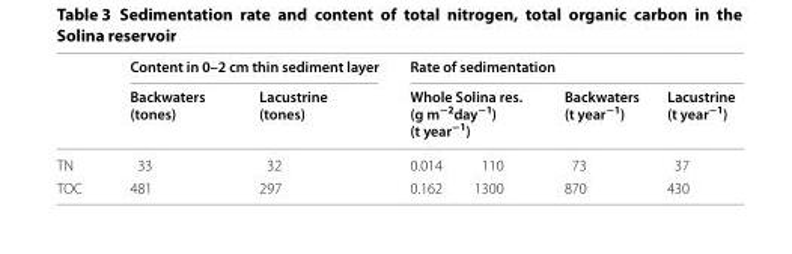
<table><thead><tr><td rowspan="3">TN</td><td colspan="2">Content in 0–2 cm thin sediment layer</td><td colspan="4">Rate of sedimentation</td></tr><tr><td rowspan="2">Backwaters (tones) 33</td><td rowspan="2">Lacustrine (tones) 32</td><td colspan="2">Whole Solina res. (g m<sup>−2</sup>day<sup>−1</sup>) (t year<sup>−1</sup>)</td><td rowspan="2">Backwaters (t year<sup>−1</sup>) 73</td><td rowspan="2">Lacustrine (t year<sup>−1</sup>) 37</td></tr><tr><td>0.014</td><td>110</td></tr></thead><tbody><tr><td>TOC</td><td>481</td><td>297</td><td>0.162</td><td>1300</td><td>870</td><td>430</td></tr></tbody></table>